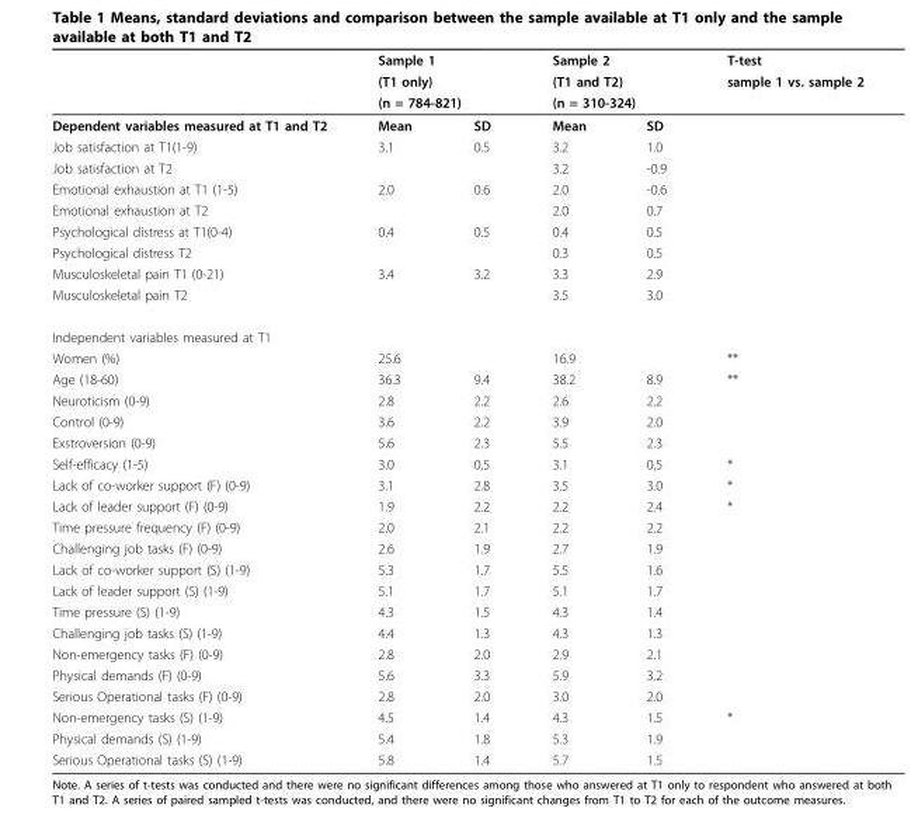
<table><thead><tr><td rowspan="4">Dependent variables measured at T1 and T2</td><td rowspan="3" colspan="2">Sample 1 (T1 only) (n = 784-821)</td><td rowspan="3" colspan="2">Sample 2 (T1 and T2) (n = 310-324)</td><td rowspan="4">T-test sample 1 vs. sample 2</td></tr><tr></tr><tr></tr><tr><td>Mean</td><td>SD</td><td>Mean</td><td>SD</td></tr></thead><tbody><tr><td>Job satisfaction at T1(1-9)</td><td>3.1</td><td>0.5</td><td>3.2</td><td>1.0</td><td></td></tr><tr><td>Job satisfaction at T2</td><td></td><td></td><td>3.2</td><td>-0.9</td><td></td></tr><tr><td>Emotional exhaustion at T1 (1-5)</td><td>2.0</td><td>0.6</td><td>2.0</td><td>-0.6</td><td></td></tr><tr><td>Emotional exhaustion at T2</td><td></td><td></td><td>2.0</td><td>0.7</td><td></td></tr><tr><td>Psychological distress at T1(0-4)</td><td>0.4</td><td>0.5</td><td>0.4</td><td>0.5</td><td></td></tr><tr><td>Psychological distress T2</td><td></td><td></td><td>0.3</td><td>0.5</td><td></td></tr><tr><td>Musculoskeletal pain T1 (0-21)</td><td>3.4</td><td>3.2</td><td>3.3</td><td>2.9</td><td></td></tr><tr><td>Musculoskeletal pain T2</td><td></td><td></td><td>3.5</td><td>3.0</td><td></td></tr><tr><td colspan="6">Independent variables measured at T1</td></tr><tr><td>Women (%)</td><td>25.6</td><td></td><td>16.9</td><td></td><td>**</td></tr><tr><td>Age (18-60)</td><td>36.3</td><td>9.4</td><td>38.2</td><td>8.9</td><td>**</td></tr><tr><td>Neuroticism (0-9)</td><td>2.8</td><td>2.2</td><td>2.6</td><td>2.2</td><td></td></tr><tr><td>Control (0-9)</td><td>3.6</td><td>2.2</td><td>3.9</td><td>2.0</td><td></td></tr><tr><td>Exstroversion (0-9)</td><td>5.6</td><td>2.3</td><td>5.5</td><td>2.3</td><td></td></tr><tr><td>Self-efficacy (1-5)</td><td>3.0</td><td>0,5</td><td>3.1</td><td>0,5</td><td>*</td></tr><tr><td>Lack of co-worker support (F) (0-9)</td><td>3.1</td><td>2.8</td><td>3.5</td><td>3.0</td><td>*</td></tr><tr><td>Lack of leader support (F) (0-9)</td><td>1.9</td><td>2.2</td><td>2.2</td><td>2.4</td><td>*</td></tr><tr><td>Time pressure frequency (F) (0-9)</td><td>2.0</td><td>2.1</td><td>2.2</td><td>2.2</td><td></td></tr><tr><td>Challenging job tasks (F) (0-9)</td><td>2.6</td><td>1.9</td><td>2.7</td><td>1.9</td><td></td></tr><tr><td>Lack of co-worker support (S) (1-9)</td><td>5.3</td><td>1.7</td><td>5.5</td><td>1.6</td><td></td></tr><tr><td>Lack of leader support (S) (1-9)</td><td>5.1</td><td>1.7</td><td>5.1</td><td>1.7</td><td></td></tr><tr><td>Time pressure (S) (1-9)</td><td>4.3</td><td>1.5</td><td>4.3</td><td>1.4</td><td></td></tr><tr><td>Challenging job tasks (S) (1-9)</td><td>4.4</td><td>1.3</td><td>4.3</td><td>1.3</td><td></td></tr><tr><td>Non-emergency tasks (F) (0-9)</td><td>2.8</td><td>2.0</td><td>2.9</td><td>2.1</td><td></td></tr><tr><td>Physical demands (F) (0-9)</td><td>5.6</td><td>3.3</td><td>5.9</td><td>3.2</td><td></td></tr><tr><td>Serious Operational tasks (F) (0-9)</td><td>2.8</td><td>2.0</td><td>3.0</td><td>2.0</td><td></td></tr><tr><td>Non-emergency tasks (S) (1-9)</td><td>4.5</td><td>1.4</td><td>4.3</td><td>1.5</td><td>*</td></tr><tr><td>Physical demands (S) (1-9)</td><td>5.4</td><td>1.8</td><td>5.3</td><td>1.9</td><td></td></tr><tr><td>Serious Operational tasks (S) (1-9)</td><td>5.8</td><td>1.4</td><td>5.7</td><td>1.5</td><td></td></tr></tbody></table>